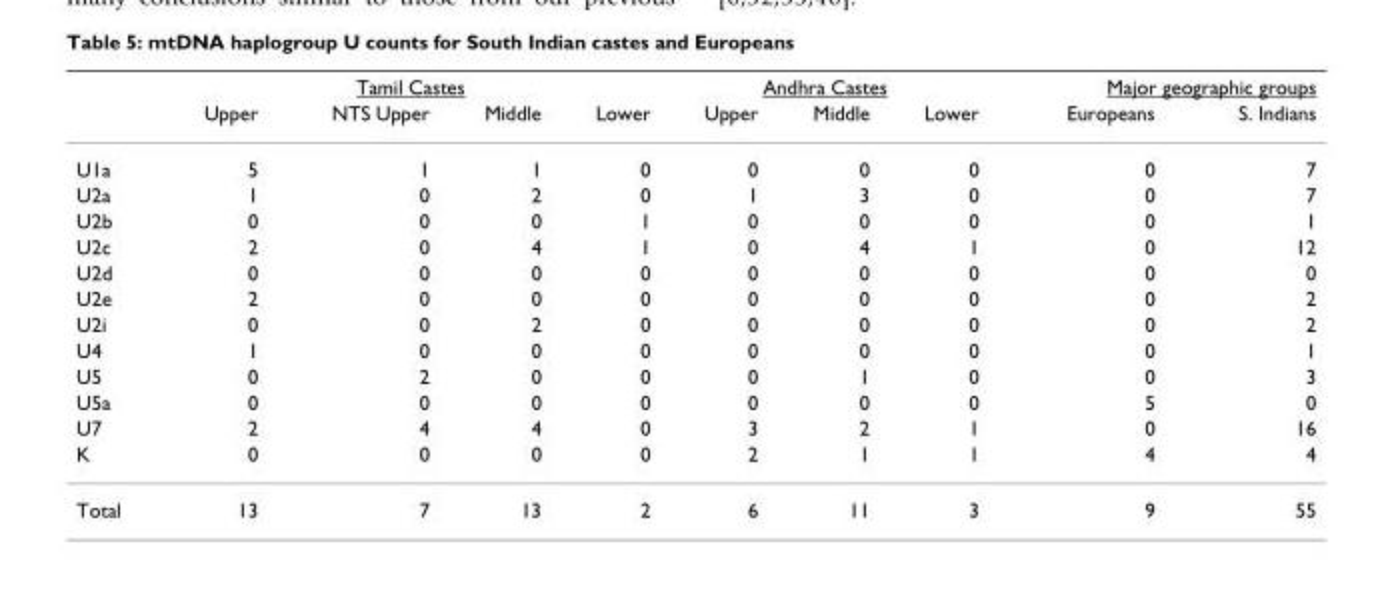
<table><thead><tr><td rowspan="2"></td><td colspan="4">Tamil Castes</td><td colspan="3">Andhra Castes</td><td colspan="2">Major geographic groups</td></tr><tr><td>Upper</td><td>NTS Upper</td><td>Middle</td><td>Lower</td><td>Upper</td><td>Middle</td><td>Lower</td><td>Europeans</td><td>S. Indians</td></tr></thead><tbody><tr><td>U1a</td><td>5</td><td>1</td><td>1</td><td>0</td><td>0</td><td>0</td><td>0</td><td>0</td><td>7</td></tr><tr><td>U2a</td><td>1</td><td>0</td><td>2</td><td>0</td><td>1</td><td>3</td><td>0</td><td>0</td><td>7</td></tr><tr><td>U2b</td><td>0</td><td>0</td><td>0</td><td>1</td><td>0</td><td>0</td><td>0</td><td>0</td><td>1</td></tr><tr><td>U2c</td><td>2</td><td>0</td><td>4</td><td>1</td><td>0</td><td>4</td><td>1</td><td>0</td><td>12</td></tr><tr><td>U2d</td><td>0</td><td>0</td><td>0</td><td>0</td><td>0</td><td>0</td><td>0</td><td>0</td><td>0</td></tr><tr><td>U2e</td><td>2</td><td>0</td><td>0</td><td>0</td><td>0</td><td>0</td><td>0</td><td>0</td><td>2</td></tr><tr><td>U2i</td><td>0</td><td>0</td><td>2</td><td>0</td><td>0</td><td>0</td><td>0</td><td>0</td><td>2</td></tr><tr><td>U4</td><td>1</td><td>0</td><td>0</td><td>0</td><td>0</td><td>0</td><td>0</td><td>0</td><td>1</td></tr><tr><td>U5</td><td>0</td><td>2</td><td>0</td><td>0</td><td>0</td><td>1</td><td>0</td><td>0</td><td>3</td></tr><tr><td>U5a</td><td>0</td><td>0</td><td>0</td><td>0</td><td>0</td><td>0</td><td>0</td><td>5</td><td>0</td></tr><tr><td>U7</td><td>2</td><td>4</td><td>4</td><td>0</td><td>3</td><td>2</td><td>1</td><td>0</td><td>16</td></tr><tr><td>K</td><td>0</td><td>0</td><td>0</td><td>0</td><td>2</td><td>1</td><td>1</td><td>4</td><td>4</td></tr><tr><td>Total</td><td>13</td><td>7</td><td>13</td><td>2</td><td>6</td><td>11</td><td>3</td><td>9</td><td>55</td></tr></tbody></table>